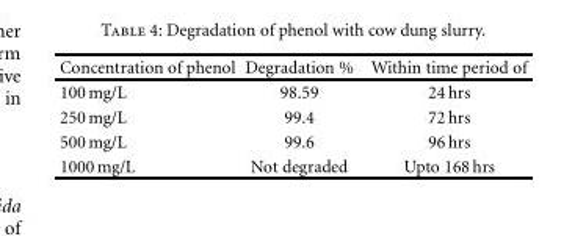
<table><thead><tr><td>Concentration of phenol</td><td>Degradation %</td><td>Within time period of</td></tr></thead><tbody><tr><td>100 mg/L</td><td>98.59</td><td>24 hrs</td></tr><tr><td>250 mg/L</td><td>99.4</td><td>72 hrs</td></tr><tr><td>500 mg/L</td><td>99.6</td><td>96 hrs</td></tr><tr><td>1000 mg/L</td><td>Not degraded</td><td>Upto 168 hrs</td></tr></tbody></table>